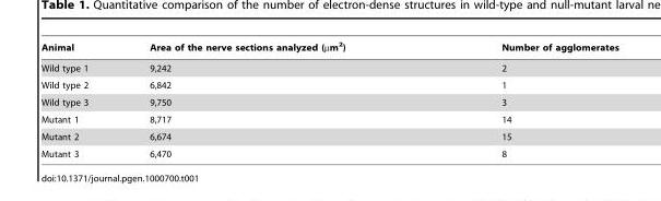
<table><thead><tr><td>Animal</td><td>Area of the nerve sections analyzed (µm<sup>2</sup>)</td><td>Number of agglomerates</td></tr></thead><tbody><tr><td>Wild type 1</td><td>9,242</td><td>2</td></tr><tr><td>Wild type 2</td><td>6,842</td><td>1</td></tr><tr><td>Wild type 3</td><td>9,750</td><td>3</td></tr><tr><td>Mutant 1</td><td>8,717</td><td>14</td></tr><tr><td>Mutant 2</td><td>6,674</td><td>15</td></tr><tr><td>Mutant 3</td><td>6,470</td><td>8</td></tr></tbody></table>